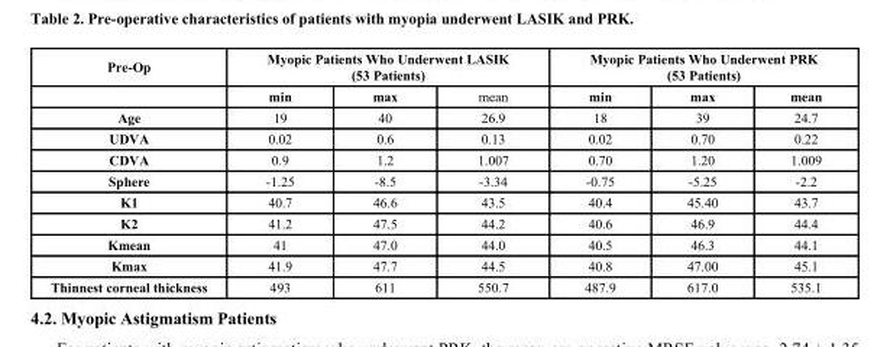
<table><thead><tr><td rowspan="2">Pre-Op</td><td colspan="3">Myopic Patients Who Underwent LASIK (53 Patients)</td><td colspan="3">Myopic Patients Who Underwent PRK (53 Patients)</td></tr><tr><td>min</td><td>max</td><td>mean</td><td>min</td><td>max</td><td>mean</td></tr></thead><tbody><tr><td>Age</td><td>19</td><td>40</td><td>26.9</td><td>18</td><td>39</td><td>24.7</td></tr><tr><td>UDVA</td><td>0.02</td><td>0.6</td><td>0.13</td><td>0.02</td><td>0.70</td><td>0.22</td></tr><tr><td>CDVA</td><td>0.9</td><td>1.2</td><td>1.007</td><td>0.70</td><td>1.20</td><td>1.009</td></tr><tr><td>Sphere</td><td>-1.25</td><td>-8.5</td><td>-3.34</td><td>-0.75</td><td>-5.25</td><td>-2.2</td></tr><tr><td>K1</td><td>40.7</td><td>46.6</td><td>43.5</td><td>40.4</td><td>45.40</td><td>43.7</td></tr><tr><td>K2</td><td>41.2</td><td>47.5</td><td>44.2</td><td>40.6</td><td>46.9</td><td>44.4</td></tr><tr><td>Kmean</td><td>41</td><td>47.0</td><td>44.0</td><td>40.5</td><td>46.3</td><td>44.1</td></tr><tr><td>Kmax</td><td>41.9</td><td>47.7</td><td>44.5</td><td>40.8</td><td>47.00</td><td>45.1</td></tr><tr><td>Thinnest corneal thickness</td><td>493</td><td>611</td><td>550.7</td><td>487.9</td><td>617.0</td><td>535.1</td></tr></tbody></table>